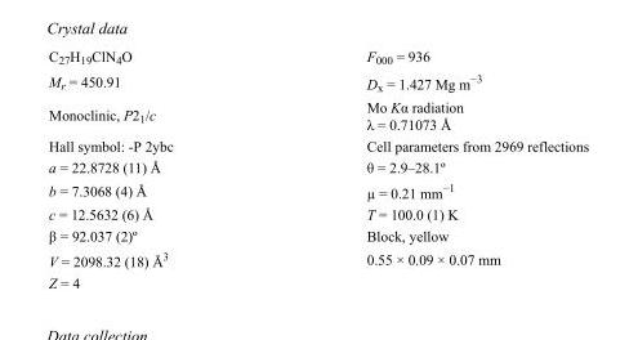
<table><tbody><tr><td>C<sub>27</sub>H<sub>19</sub>ClN<sub>4</sub>O</td><td>F<sub>000</sub> = 936</td></tr><tr><td>M<sub>r</sub> = 450.91</td><td>D<sub>x</sub> = 1.427 Mg m<sup>−3</sup></td></tr><tr><td>Monoclinic, P2<sub>1</sub>/c</td><td>Mo Kα radiation λ = 0.71073 Å</td></tr><tr><td>Hall symbol: -P 2ybc</td><td>Cell parameters from 2969 reflections</td></tr><tr><td>a = 22.8728 (11) Å</td><td>θ = 2.9–28.1º</td></tr><tr><td>b = 7.3068 (4) Å</td><td>µ = 0.21 mm<sup>−1</sup></td></tr><tr><td>c = 12.5632 (6) Å</td><td>T = 100.0 (1) K</td></tr><tr><td>β = 92.037 (2)º</td><td>Block, yellow</td></tr><tr><td>V = 2098.32 (18) Å<sup>3</sup></td><td>0.55 × 0.09 × 0.07 mm</td></tr><tr><td>Z = 4</td><td></td></tr></tbody></table>